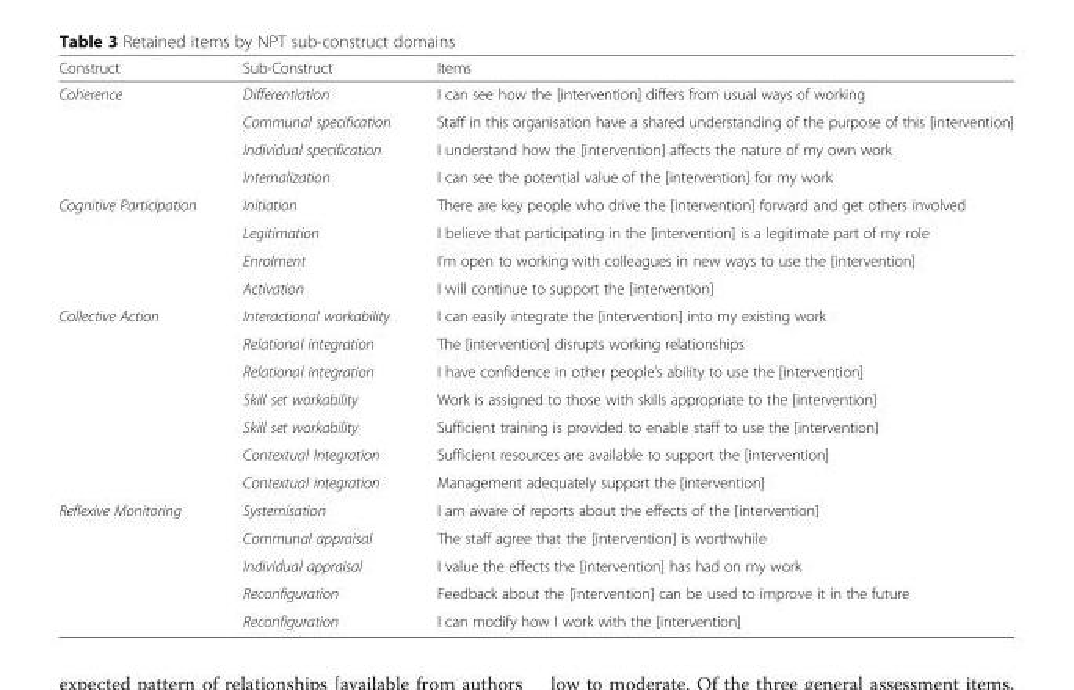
<table><thead><tr><td>Construct</td><td>Sub-Construct</td><td>Items</td></tr></thead><tbody><tr><td rowspan="4">Coherence</td><td>Differentiation</td><td>I can see how the [intervention] differs from usual ways of working</td></tr><tr><td>Communal specification</td><td>Staff in this organisation have a shared understanding of the purpose of this [intervention]</td></tr><tr><td>Individual specification</td><td>I understand how the [intervention] affects the nature of my own work</td></tr><tr><td>Internalization</td><td>I can see the potential value of the [intervention] for my work</td></tr><tr><td rowspan="4">Cognitive Participation</td><td>Initiation</td><td>There are key people who drive the [intervention] forward and get others involved</td></tr><tr><td>Legitimation</td><td>I believe that participating in the [intervention] is a legitimate part of my role</td></tr><tr><td>Enrolment</td><td>I’m open to working with colleagues in new ways to use the [intervention]</td></tr><tr><td>Activation</td><td>I will continue to support the [intervention]</td></tr><tr><td rowspan="7">Collective Action</td><td>Interactional workability</td><td>I can easily integrate the [intervention] into my existing work</td></tr><tr><td>Relational integration</td><td>The [intervention] disrupts working relationships</td></tr><tr><td>Relational integration</td><td>I have confidence in other people’s ability to use the [intervention]</td></tr><tr><td>Skill set workability</td><td>Work is assigned to those with skills appropriate to the [intervention]</td></tr><tr><td>Skill set workability</td><td>Sufficient training is provided to enable staff to use the [intervention]</td></tr><tr><td>Contextual Integration</td><td>Sufficient resources are available to support the [intervention]</td></tr><tr><td>Contextual integration</td><td>Management adequately support the [intervention]</td></tr><tr><td rowspan="5">Reflexive Monitoring</td><td>Systemisation</td><td>I am aware of reports about the effects of the [intervention]</td></tr><tr><td>Communal appraisal</td><td>The staff agree that the [intervention] is worthwhile</td></tr><tr><td>Individual appraisal</td><td>I value the effects the [intervention] has had on my work</td></tr><tr><td>Reconfiguration</td><td>Feedback about the [intervention] can be used to improve it in the future</td></tr><tr><td>Reconfiguration</td><td>I can modify how I work with the [intervention]</td></tr></tbody></table>